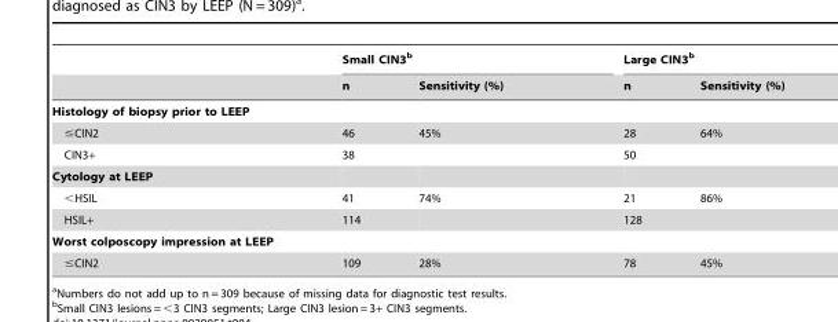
<table><thead><tr><td rowspan="2"></td><td colspan="2">Small CIN3<sup>b</sup></td><td colspan="2">Large CIN3<sup>b</sup></td></tr><tr><td>n</td><td>Sensitivity (%)</td><td>n</td><td>Sensitivity (%)</td></tr></thead><tbody><tr><td colspan="5">Histology of biopsy prior to LEEP</td></tr><tr><td>≤CIN2</td><td>46</td><td>45%</td><td>28</td><td>64%</td></tr><tr><td>CIN3+</td><td>38</td><td></td><td>50</td><td></td></tr><tr><td colspan="5">Cytology at LEEP</td></tr><tr><td>&lt;HSIL</td><td>41</td><td>74%</td><td>21</td><td>86%</td></tr><tr><td>HSIL+</td><td>114</td><td></td><td>128</td><td></td></tr><tr><td colspan="5">Worst colposcopy impression at LEEP</td></tr><tr><td>≤CIN2</td><td>109</td><td>28%</td><td>78</td><td>45%</td></tr></tbody></table>